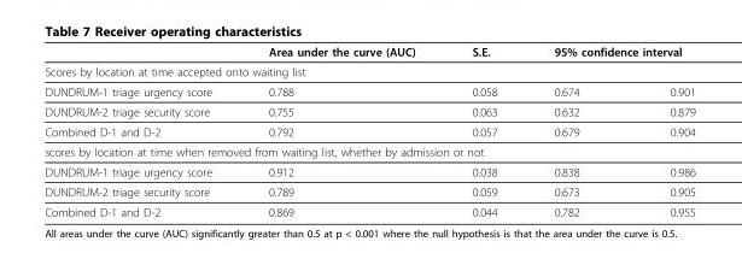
<table><thead><tr><td></td><td>Area under the curve (AUC)</td><td>S.E.</td><td colspan="2">95% confidence interval</td></tr><tr><td colspan="5">Scores by location at time accepted onto waiting list</td></tr><tr><td>DUNDRUM-1 triage urgency score</td><td>0.788</td><td>0.058</td><td>0.674</td><td>0.901</td></tr></thead><tbody><tr><td>DUNDRUM-2 triage security score</td><td>0.755</td><td>0.063</td><td>0.632</td><td>0.879</td></tr><tr><td>Combined D-1 and D-2</td><td>0.792</td><td>0.057</td><td>0.679</td><td>0.904</td></tr><tr><td colspan="5">scores by location at time when removed from waiting list, whether by admission or not</td></tr><tr><td>DUNDRUM-1 triage urgency score</td><td>0.912</td><td>0.038</td><td>0.838</td><td>0.986</td></tr><tr><td>DUNDRUM-2 triage security score</td><td>0.789</td><td>0.059</td><td>0.673</td><td>0.905</td></tr><tr><td>Combined D-1 and D-2</td><td>0.869</td><td>0.044</td><td>0.782</td><td>0.955</td></tr></tbody></table>